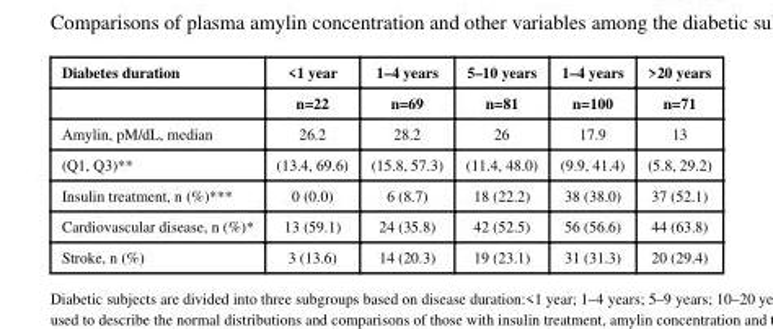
<table><thead><tr><td rowspan="2">Diabetes duration</td><td rowspan="2">&lt;1 year n=22</td><td rowspan="2">1–4 years n=69</td><td rowspan="2">5–10 years n=81</td><td rowspan="2">1–4 years n=100</td><td rowspan="2">&gt;20 years n=71</td></tr><tr></tr></thead><tbody><tr><td>Amylin, pM/dL, median</td><td>26.2</td><td>28.2</td><td>26</td><td>17.9</td><td>13</td></tr><tr><td>(Q1, Q3)**</td><td>(13.4, 69.6)</td><td>(15.8, 57.3)</td><td>(11.4, 48.0)</td><td>(9.9, 41.4)</td><td>(5.8, 29.2)</td></tr><tr><td>Insulin treatment, n (%)***</td><td>0 (0.0)</td><td>6 (8.7)</td><td>18 (22.2)</td><td>38 (38.0)</td><td>37 (52.1)</td></tr><tr><td>Cardiovascular disease, n (%)*</td><td>13 (59.1)</td><td>24 (35.8)</td><td>42 (52.5)</td><td>56 (56.6)</td><td>44 (63.8)</td></tr><tr><td>Stroke, n (%)</td><td>3 (13.6)</td><td>14 (20.3)</td><td>19 (23.1)</td><td>31 (31.3)</td><td>20 (29.4)</td></tr></tbody></table>